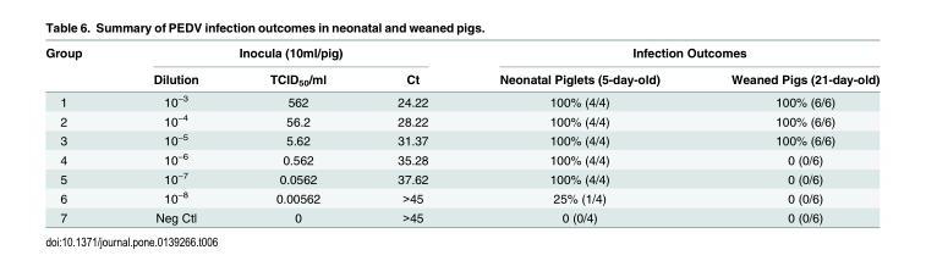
<table><thead><tr><td rowspan="2">Group</td><td colspan="3">Inocula (10ml/pig)</td><td colspan="2">Infection Outcomes</td></tr><tr><td>Dilution</td><td>TCID<sub>50</sub>/ml</td><td>Ct</td><td>Neonatal Piglets (5-day-old)</td><td>Weaned Pigs (21-day-old)</td></tr></thead><tbody><tr><td>1</td><td>10<sup>−3</sup></td><td>562</td><td>24.22</td><td>100% (4/4)</td><td>100% (6/6)</td></tr><tr><td>2</td><td>10<sup>−4</sup></td><td>56.2</td><td>28.22</td><td>100% (4/4)</td><td>100% (6/6)</td></tr><tr><td>3</td><td>10<sup>−5</sup></td><td>5.62</td><td>31.37</td><td>100% (4/4)</td><td>100% (6/6)</td></tr><tr><td>4</td><td>10<sup>−6</sup></td><td>0.562</td><td>35.28</td><td>100% (4/4)</td><td>0 (0/6)</td></tr><tr><td>5</td><td>10<sup>−7</sup></td><td>0.0562</td><td>37.62</td><td>100% (4/4)</td><td>0 (0/6)</td></tr><tr><td>6</td><td>10<sup>−8</sup></td><td>0.00562</td><td>&gt;45</td><td>25% (1/4)</td><td>0 (0/6)</td></tr><tr><td>7</td><td>Neg Ctl</td><td>0</td><td>&gt;45</td><td>0 (0/4)</td><td>0 (0/6)</td></tr></tbody></table>